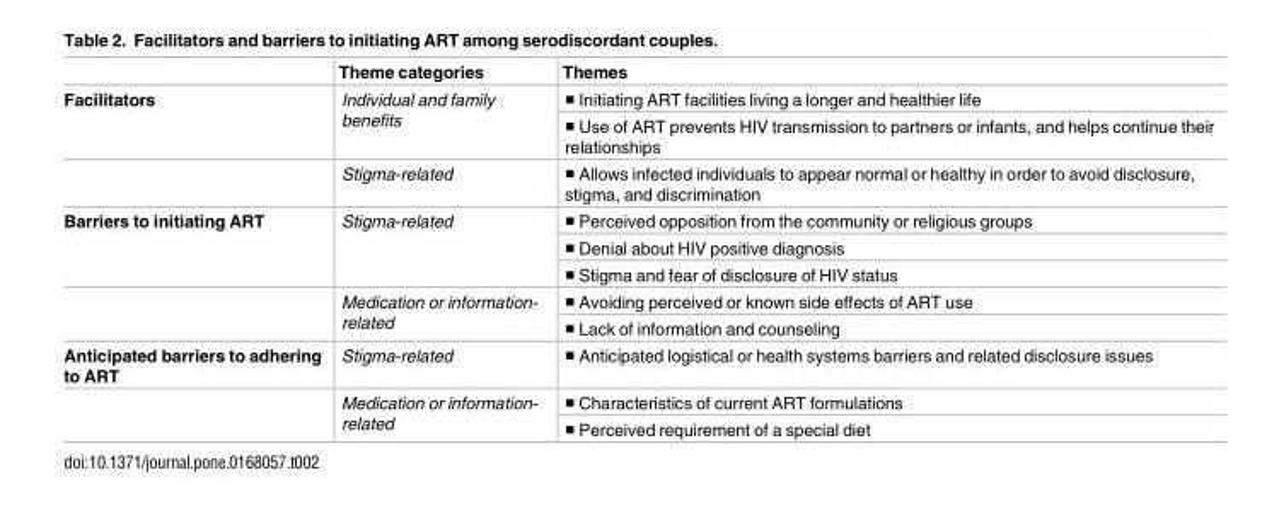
<table><thead><tr><td></td><td>Theme categories</td><td>Themes</td></tr></thead><tbody><tr><td rowspan="3">Facilitators</td><td rowspan="2">Individual and family benefits</td><td>■ Initiating ART facilities living a longer and healthier life</td></tr><tr><td>■ Use of ART prevents HIV transmission to partners or infants, and helps continue their relationships</td></tr><tr><td>Stigma-related</td><td>■ Allows infected individuals to appear normal or healthy in order to avoid disclosure, stigma, and discrimination</td></tr><tr><td rowspan="5">Barriers to initiating ART</td><td rowspan="3">Stigma-related</td><td>■ Perceived opposition from the community or religious groups</td></tr><tr><td>■ Denial about HIV positive diagnosis</td></tr><tr><td>■ Stigma and fear of disclosure of HIV status</td></tr><tr><td rowspan="2">Medication or information- related</td><td>■ Avoiding perceived or known side effects of ART use</td></tr><tr><td>■ Lack of information and counseling</td></tr><tr><td rowspan="3">Anticipated barriers to adhering to ART</td><td>Stigma-related</td><td>■ Anticipated logistical or health systems barriers and related disclosure issues</td></tr><tr><td rowspan="2">Medication or information- related</td><td>■ Characteristics of current ART formulations</td></tr><tr><td>■ Perceived requirement of a special diet</td></tr></tbody></table>